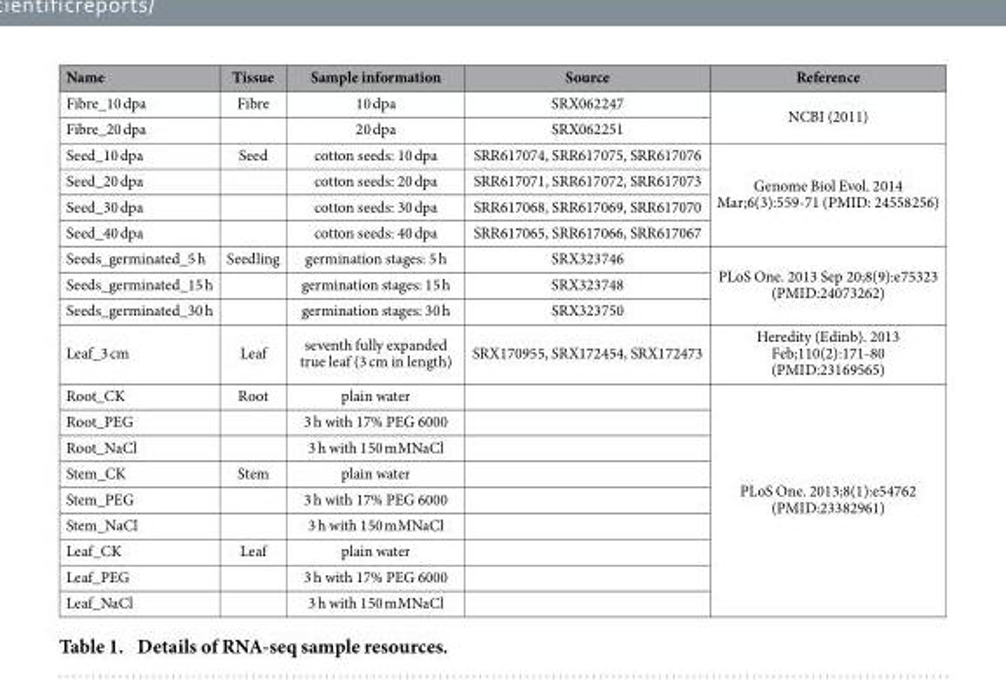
<table><thead><tr><td>Name</td><td>Tissue</td><td>Sample information</td><td>Source</td><td>Reference</td></tr></thead><tbody><tr><td>Fibre_10 dpa</td><td>Fibre</td><td>10 dpa</td><td>SRX062247</td><td rowspan="2">NCBI (2011)</td></tr><tr><td>Fibre_20 dpa</td><td></td><td>20 dpa</td><td>SRX062251</td></tr><tr><td>Seed_10 dpa</td><td>Seed</td><td>cotton seeds: 10 dpa</td><td>SRR617074, SRR617075, SRR617076</td><td rowspan="4">Genome Biol Evol. 2014 Mar;6(3):559-71 (PMID: 24558256)</td></tr><tr><td>Seed_20 dpa</td><td></td><td>cotton seeds: 20 dpa</td><td>SRR617071, SRR617072, SRR617073</td></tr><tr><td>Seed_30 dpa</td><td></td><td>cotton seeds: 30 dpa</td><td>SRR617068, SRR617069, SRR617070</td></tr><tr><td>Seed_40 dpa</td><td></td><td>cotton seeds: 40 dpa</td><td>SRR617065, SRR617066, SRR617067</td></tr><tr><td>Seeds_germinated_5 h</td><td>Seedling</td><td>germination stages: 5 h</td><td>SRX323746</td><td rowspan="3">PLoS One. 2013 Sep 20;8(9):e75323 (PMID:24073262)</td></tr><tr><td>Seeds_germinated_15 h</td><td></td><td>germination stages: 15 h</td><td>SRX323748</td></tr><tr><td>Seeds_germinated_30 h</td><td></td><td>germination stages: 30 h</td><td>SRX323750</td></tr><tr><td>Leaf_3 cm</td><td>Leaf</td><td>seventh fully expanded true leaf (3 cm in length)</td><td>SRX170955, SRX172454, SRX172473</td><td>Heredity (Edinb). 2013 Feb;110(2):171-80 (PMID:23169565)</td></tr><tr><td>Root_CK</td><td>Root</td><td>plain water</td><td></td><td rowspan="9">PLoS One. 2013;8(1):e54762 (PMID:23382961)</td></tr><tr><td>Root_PEG</td><td></td><td>3 h with 17% PEG 6000</td><td></td></tr><tr><td>Root_NaCl</td><td></td><td>3 h with 150 mMNaCl</td><td></td></tr><tr><td>Stem_CK</td><td>Stem</td><td>plain water</td><td></td></tr><tr><td>Stem_PEG</td><td></td><td>3 h with 17% PEG 6000</td><td></td></tr><tr><td>Stem_NaCl</td><td></td><td>3 h with 150 mMNaCl</td><td></td></tr><tr><td>Leaf_CK</td><td>Leaf</td><td>plain water</td><td></td></tr><tr><td>Leaf_PEG</td><td></td><td>3 h with 17% PEG 6000</td><td></td></tr><tr><td>Leaf_NaCl</td><td></td><td>3 h with 150 mMNaCl</td><td></td></tr></tbody></table>